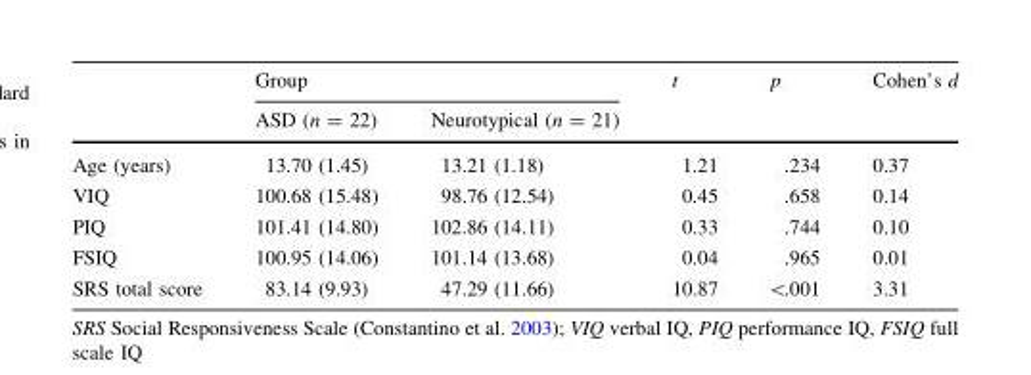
<table><thead><tr><td rowspan="2"></td><td colspan="2">Group</td><td rowspan="2">t</td><td rowspan="2">p</td><td rowspan="2">Cohen’s d</td></tr><tr><td>ASD (n = 22)</td><td>Neurotypical (n = 21)</td></tr></thead><tbody><tr><td>Age (years)</td><td>13.70 (1.45)</td><td>13.21 (1.18)</td><td>1.21</td><td>.234</td><td>0.37</td></tr><tr><td>VIQ</td><td>100.68 (15.48)</td><td>98.76 (12.54)</td><td>0.45</td><td>.658</td><td>0.14</td></tr><tr><td>PIQ</td><td>101.41 (14.80)</td><td>102.86 (14.11)</td><td>0.33</td><td>.744</td><td>0.10</td></tr><tr><td>FSIQ</td><td>100.95 (14.06)</td><td>101.14 (13.68)</td><td>0.04</td><td>.965</td><td>0.01</td></tr><tr><td>SRS total score</td><td>83.14 (9.93)</td><td>47.29 (11.66)</td><td>10.87</td><td>&lt;.001</td><td>3.31</td></tr></tbody></table>